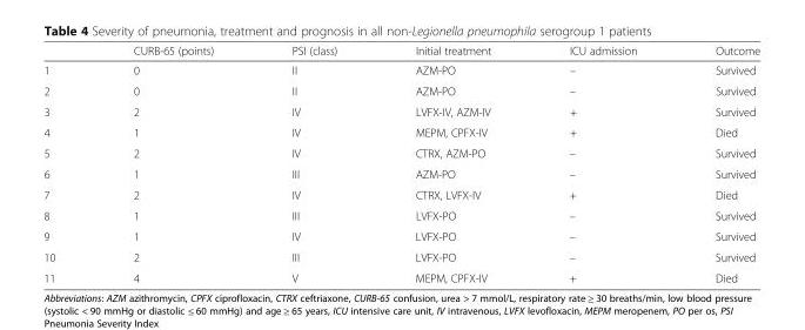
<table><thead><tr><td></td><td>CURB-65 (points)</td><td>PSI (class)</td><td>Initial treatment</td><td>ICU admission</td><td>Outcome</td></tr></thead><tbody><tr><td>1</td><td>0</td><td>II</td><td>AZM-PO</td><td>–</td><td>Survived</td></tr><tr><td>2</td><td>0</td><td>II</td><td>AZM-PO</td><td>–</td><td>Survived</td></tr><tr><td>3</td><td>2</td><td>IV</td><td>LVFX-IV, AZM-IV</td><td>+</td><td>Survived</td></tr><tr><td>4</td><td>1</td><td>IV</td><td>MEPM, CPFX-IV</td><td>+</td><td>Died</td></tr><tr><td>5</td><td>2</td><td>IV</td><td>CTRX, AZM-PO</td><td>–</td><td>Survived</td></tr><tr><td>6</td><td>1</td><td>III</td><td>AZM-PO</td><td>–</td><td>Survived</td></tr><tr><td>7</td><td>2</td><td>IV</td><td>CTRX, LVFX-IV</td><td>+</td><td>Died</td></tr><tr><td>8</td><td>1</td><td>III</td><td>LVFX-PO</td><td>–</td><td>Survived</td></tr><tr><td>9</td><td>1</td><td>IV</td><td>LVFX-PO</td><td>–</td><td>Survived</td></tr><tr><td>10</td><td>2</td><td>III</td><td>LVFX-PO</td><td>–</td><td>Survived</td></tr><tr><td>11</td><td>4</td><td>V</td><td>MEPM, CPFX-IV</td><td>+</td><td>Died</td></tr></tbody></table>